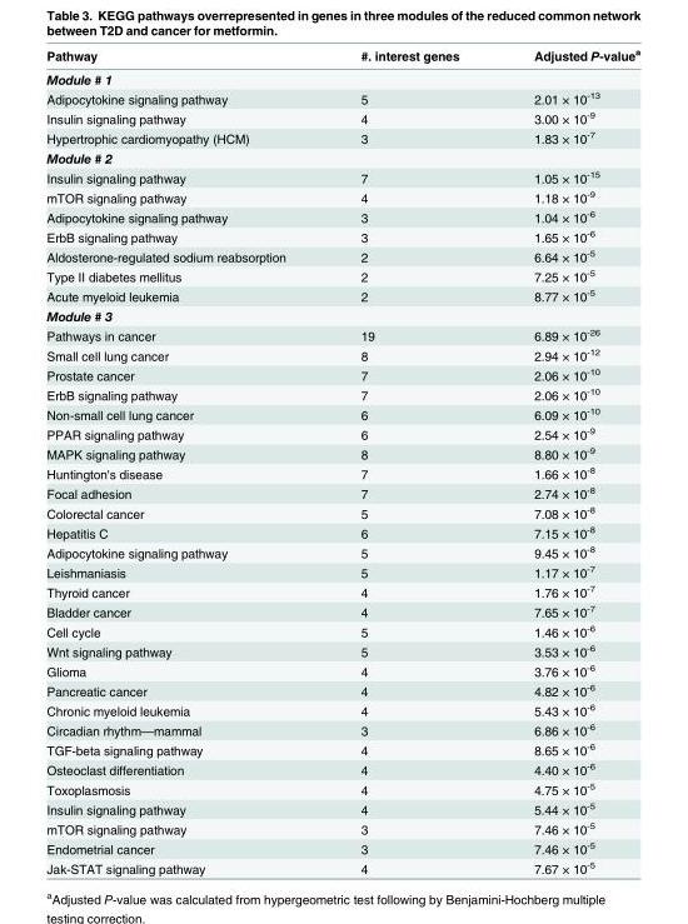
<table><thead><tr><td>Pathway</td><td>#. interest genes</td><td>Adjusted P-value<sup>a</sup></td></tr></thead><tbody><tr><td colspan="3">Module # 1</td></tr><tr><td>Adipocytokine signaling pathway</td><td>5</td><td>2.01 × 10<sup>-13</sup></td></tr><tr><td>Insulin signaling pathway</td><td>4</td><td>3.00 × 10<sup>-9</sup></td></tr><tr><td>Hypertrophic cardiomyopathy (HCM)</td><td>3</td><td>1.83 × 10<sup>-7</sup></td></tr><tr><td colspan="3">Module # 2</td></tr><tr><td>Insulin signaling pathway</td><td>7</td><td>1.05 × 10<sup>-15</sup></td></tr><tr><td>mTOR signaling pathway</td><td>4</td><td>1.18 × 10<sup>-9</sup></td></tr><tr><td>Adipocytokine signaling pathway</td><td>3</td><td>1.04 × 10<sup>-6</sup></td></tr><tr><td>ErbB signaling pathway</td><td>3</td><td>1.65 × 10<sup>-6</sup></td></tr><tr><td>Aldosterone-regulated sodium reabsorption</td><td>2</td><td>6.64 × 10<sup>-5</sup></td></tr><tr><td>Type II diabetes mellitus</td><td>2</td><td>7.25 × 10<sup>-5</sup></td></tr><tr><td>Acute myeloid leukemia</td><td>2</td><td>8.77 × 10<sup>-5</sup></td></tr><tr><td colspan="3">Module # 3</td></tr><tr><td>Pathways in cancer</td><td>19</td><td>6.89 × 10<sup>-26</sup></td></tr><tr><td>Small cell lung cancer</td><td>8</td><td>2.94 × 10<sup>-12</sup></td></tr><tr><td>Prostate cancer</td><td>7</td><td>2.06 × 10<sup>-10</sup></td></tr><tr><td>ErbB signaling pathway</td><td>7</td><td>2.06 × 10<sup>-10</sup></td></tr><tr><td>Non-small cell lung cancer</td><td>6</td><td>6.09 × 10<sup>-10</sup></td></tr><tr><td>PPAR signaling pathway</td><td>6</td><td>2.54 × 10<sup>-9</sup></td></tr><tr><td>MAPK signaling pathway</td><td>8</td><td>8.80 × 10<sup>-9</sup></td></tr><tr><td>Huntington&#x27;s disease</td><td>7</td><td>1.66 × 10<sup>-8</sup></td></tr><tr><td>Focal adhesion</td><td>7</td><td>2.74 × 10<sup>-8</sup></td></tr><tr><td>Colorectal cancer</td><td>5</td><td>7.08 × 10<sup>-8</sup></td></tr><tr><td>Hepatitis C</td><td>6</td><td>7.15 × 10<sup>-8</sup></td></tr><tr><td>Adipocytokine signaling pathway</td><td>5</td><td>9.45 × 10<sup>-8</sup></td></tr><tr><td>Leishmaniasis</td><td>5</td><td>1.17 × 10<sup>-7</sup></td></tr><tr><td>Thyroid cancer</td><td>4</td><td>1.76 × 10<sup>-7</sup></td></tr><tr><td>Bladder cancer</td><td>4</td><td>7.65 × 10<sup>-7</sup></td></tr><tr><td>Cell cycle</td><td>5</td><td>1.46 × 10<sup>-6</sup></td></tr><tr><td>Wnt signaling pathway</td><td>5</td><td>3.53 × 10<sup>-6</sup></td></tr><tr><td>Glioma</td><td>4</td><td>3.76 × 10<sup>-6</sup></td></tr><tr><td>Pancreatic cancer</td><td>4</td><td>4.82 × 10<sup>-6</sup></td></tr><tr><td>Chronic myeloid leukemia</td><td>4</td><td>5.43 × 10<sup>-6</sup></td></tr><tr><td>Circadian rhythm—mammal</td><td>3</td><td>6.86 × 10<sup>-6</sup></td></tr><tr><td>TGF-beta signaling pathway</td><td>4</td><td>8.65 × 10<sup>-6</sup></td></tr><tr><td>Osteoclast differentiation</td><td>4</td><td>4.40 × 10<sup>-6</sup></td></tr><tr><td>Toxoplasmosis</td><td>4</td><td>4.75 × 10<sup>-5</sup></td></tr><tr><td>Insulin signaling pathway</td><td>4</td><td>5.44 × 10<sup>-5</sup></td></tr><tr><td>mTOR signaling pathway</td><td>3</td><td>7.46 × 10<sup>-5</sup></td></tr><tr><td>Endometrial cancer</td><td>3</td><td>7.46 × 10<sup>-5</sup></td></tr><tr><td>Jak-STAT signaling pathway</td><td>4</td><td>7.67 × 10<sup>-5</sup></td></tr></tbody></table>